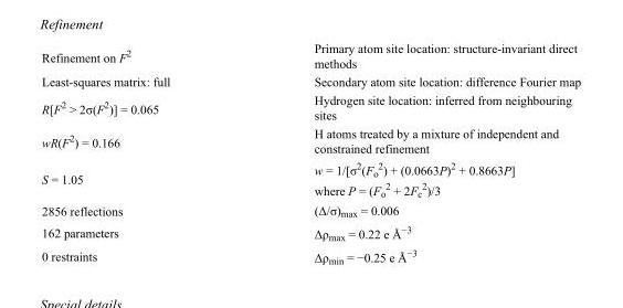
<table><tbody><tr><td>Refinement on F<sup>2</sup></td><td>Primary atom site location: structure-invariant direct methods</td></tr><tr><td>Least-squares matrix: full</td><td>Secondary atom site location: difference Fourier map</td></tr><tr><td>R[F<sup>2</sup> &gt; 2σ(F<sup>2</sup>)] = 0.065</td><td>Hydrogen site location: inferred from neighbouring sites</td></tr><tr><td>wR(F<sup>2</sup>) = 0.166</td><td>H atoms treated by a mixture of independent and constrained refinement</td></tr><tr><td>S = 1.05</td><td>w = 1/[σ<sup>2</sup>(F<sub>o</sub> <sup>2</sup>) + (0.0663P)<sup>2</sup> + 0.8663P] where P = (F<sub>o</sub> <sup>2</sup> + 2F<sub>c</sub> <sup>2</sup>)/3</td></tr><tr><td>2856 reflections</td><td>(Δ/σ)<sub>max</sub> = 0.006</td></tr><tr><td>162 parameters</td><td>Δρ<sub>max</sub> = 0.22 e Å<sup>−3</sup></td></tr><tr><td>0 restraints</td><td>Δρ<sub>min</sub> = −0.25 e Å<sup>−3</sup></td></tr></tbody></table>